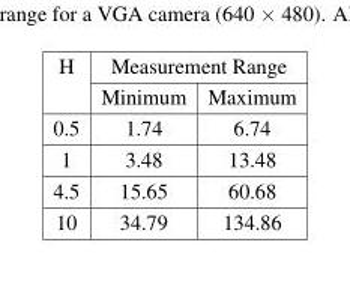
<table><thead><tr><td rowspan="2">H</td><td colspan="2">Measurement Range</td></tr><tr><td>Minimum</td><td>Maximum</td></tr></thead><tbody><tr><td>0.5</td><td>1.74</td><td>6.74</td></tr><tr><td>1</td><td>3.48</td><td>13.48</td></tr><tr><td>4.5</td><td>15.65</td><td>60.68</td></tr><tr><td>10</td><td>34.79</td><td>134.86</td></tr></tbody></table>